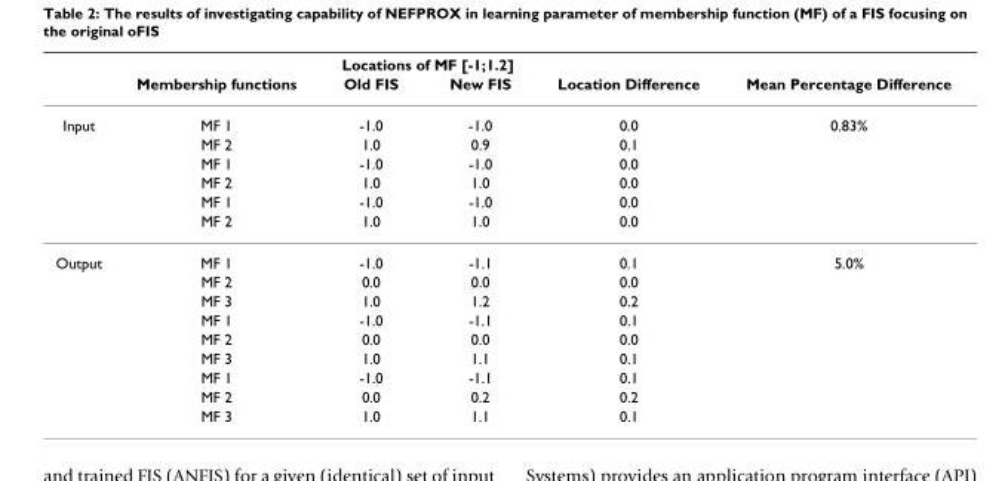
<table><thead><tr><td rowspan="2"></td><td rowspan="2">Membership functions</td><td colspan="2">Locations of MF [-1;1.2]</td><td rowspan="2">Location Difference</td><td rowspan="2">Mean Percentage Difference</td></tr><tr><td>Old FIS</td><td>New FIS</td></tr></thead><tbody><tr><td rowspan="6">Input</td><td>MF 1</td><td>-1.0</td><td>-1.0</td><td>0.0</td><td>0.83%</td></tr><tr><td>MF 2</td><td>1.0</td><td>0.9</td><td>0.1</td><td></td></tr><tr><td>MF 1</td><td>-1.0</td><td>-1.0</td><td>0.0</td><td></td></tr><tr><td>MF 2</td><td>1.0</td><td>1.0</td><td>0.0</td><td></td></tr><tr><td>MF 1</td><td>-1.0</td><td>-1.0</td><td>0.0</td><td></td></tr><tr><td>MF 2</td><td>1.0</td><td>1.0</td><td>0.0</td><td></td></tr><tr><td rowspan="9">Output</td><td>MF 1</td><td>-1.0</td><td>-1.1</td><td>0.1</td><td>5.0%</td></tr><tr><td>MF 2</td><td>0.0</td><td>0.0</td><td>0.0</td><td></td></tr><tr><td>MF 3</td><td>1.0</td><td>1.2</td><td>0.2</td><td></td></tr><tr><td>MF 1</td><td>-1.0</td><td>-1.1</td><td>0.1</td><td></td></tr><tr><td>MF 2</td><td>0.0</td><td>0.0</td><td>0.0</td><td></td></tr><tr><td>MF 3</td><td>1.0</td><td>1.1</td><td>0.1</td><td></td></tr><tr><td>MF 1</td><td>-1.0</td><td>-1.1</td><td>0.1</td><td></td></tr><tr><td>MF 2</td><td>0.0</td><td>0.2</td><td>0.2</td><td></td></tr><tr><td>MF 3</td><td>1.0</td><td>1.1</td><td>0.1</td><td></td></tr></tbody></table>